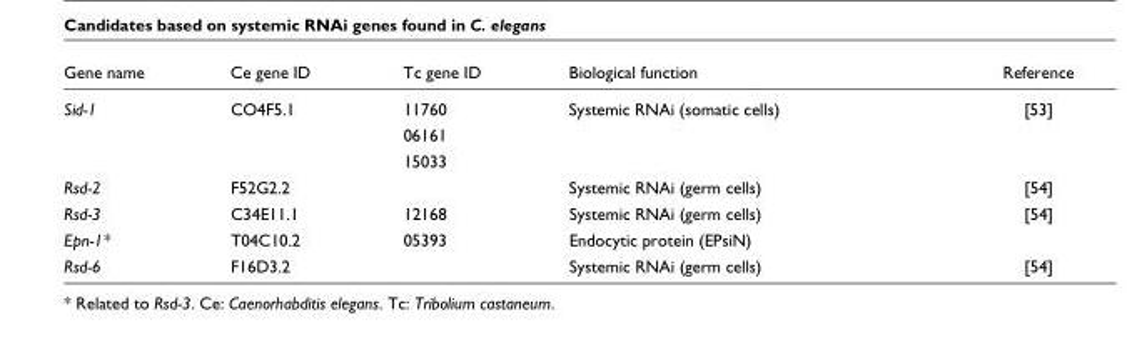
<table><thead><tr><td>Gene name</td><td>Ce gene ID</td><td>Tc gene ID</td><td>Biological function</td><td>Reference</td></tr></thead><tbody><tr><td rowspan="3">Sid-1</td><td>CO4F5.1</td><td>11760</td><td>Systemic RNAi (somatic cells)</td><td>[53]</td></tr><tr><td></td><td>06161</td><td></td><td></td></tr><tr><td></td><td>15033</td><td></td><td></td></tr><tr><td>Rsd-2</td><td>F52G2.2</td><td></td><td>Systemic RNAi (germ cells)</td><td>[54]</td></tr><tr><td>Rsd-3</td><td>C34E11.1</td><td>12168</td><td>Systemic RNAi (germ cells)</td><td>[54]</td></tr><tr><td>Epn-1*</td><td>T04C10.2</td><td>05393</td><td>Endocytic protein (EPsiN)</td><td></td></tr><tr><td>Rsd-6</td><td>F16D3.2</td><td></td><td>Systemic RNAi (germ cells)</td><td>[54]</td></tr></tbody></table>